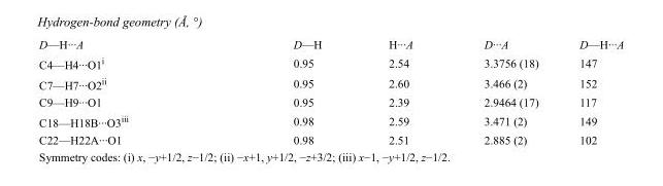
<table><tbody><tr><td>D—H···A</td><td>D—H</td><td>H···A</td><td>D···A</td><td>D—H···A</td></tr><tr><td>C4—H4···O1<sup>i</sup></td><td>0.95</td><td>2.54</td><td>3.3756 (18)</td><td>147</td></tr><tr><td>C7—H7···O2<sup>ii</sup></td><td>0.95</td><td>2.60</td><td>3.466 (2)</td><td>152</td></tr><tr><td>C9—H9···O1</td><td>0.95</td><td>2.39</td><td>2.9464 (17)</td><td>117</td></tr><tr><td>C18—H18B···O3<sup>iii</sup></td><td>0.98</td><td>2.59</td><td>3.471 (2)</td><td>149</td></tr><tr><td>C22—H22A···O1</td><td>0.98</td><td>2.51</td><td>2.885 (2)</td><td>102</td></tr></tbody></table>